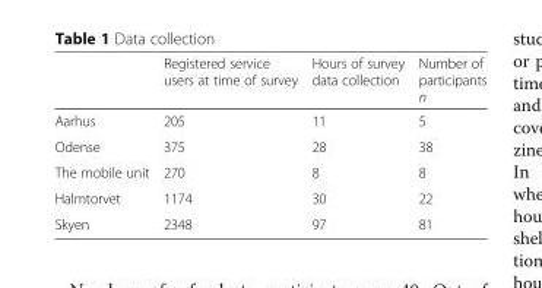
<table><thead><tr><td></td><td>Registered service users at time of survey</td><td>Hours of survey data collection</td><td>Number of participants n</td></tr></thead><tbody><tr><td>Aarhus</td><td>205</td><td>11</td><td>5</td></tr><tr><td>Odense</td><td>375</td><td>28</td><td>38</td></tr><tr><td>The mobile unit</td><td>270</td><td>8</td><td>8</td></tr><tr><td>Halmtorvet</td><td>1174</td><td>30</td><td>22</td></tr><tr><td>Skyen</td><td>2348</td><td>97</td><td>81</td></tr></tbody></table>